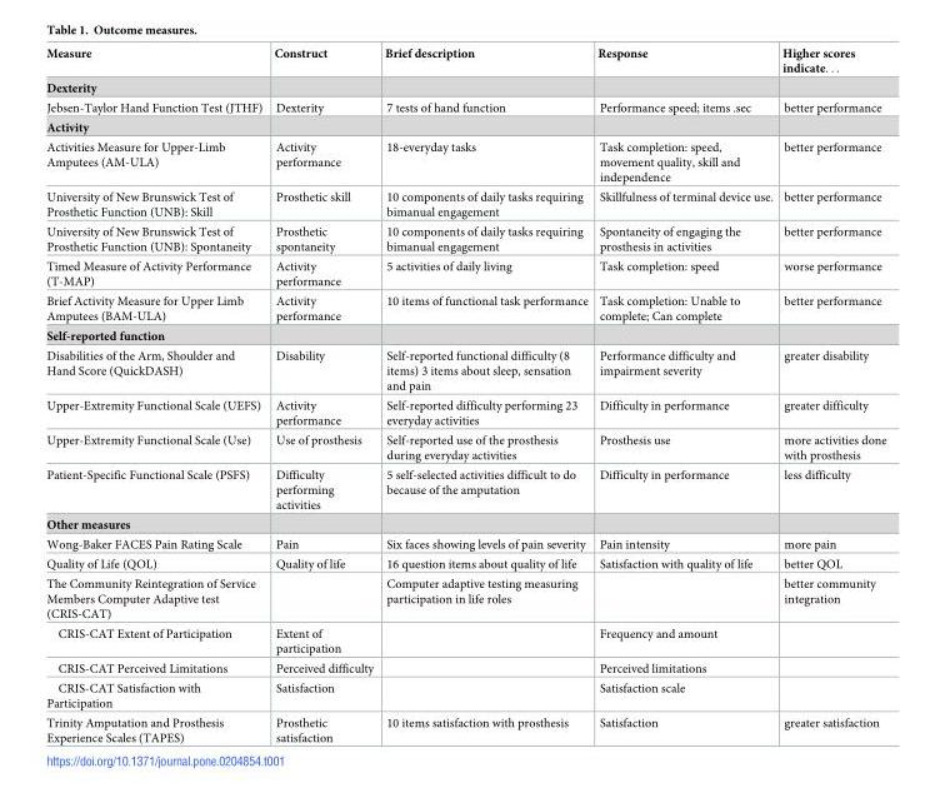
<table><thead><tr><td>Measure</td><td>Construct</td><td>Brief description</td><td>Response</td><td>Higher scores indicate. . .</td></tr></thead><tbody><tr><td colspan="5">Dexterity</td></tr><tr><td>Jebsen-Taylor Hand Function Test (JTHF)</td><td>Dexterity</td><td>7 tests of hand function</td><td>Performance speed; items .sec</td><td>better performance</td></tr><tr><td colspan="5">Activity</td></tr><tr><td>Activities Measure for Upper-Limb Amputees (AM-ULA)</td><td>Activity performance</td><td>18-everyday tasks</td><td>Task completion: speed, movement quality, skill and independence</td><td>better performance</td></tr><tr><td>University of New Brunswick Test of Prosthetic Function (UNB): Skill</td><td>Prosthetic skill</td><td>10 components of daily tasks requiring bimanual engagement</td><td>Skillfulness of terminal device use.</td><td>better performance</td></tr><tr><td>University of New Brunswick Test of Prosthetic Function (UNB): Spontaneity</td><td>Prosthetic spontaneity</td><td>10 components of daily tasks requiring bimanual engagement</td><td>Spontaneity of engaging the prosthesis in activities</td><td>better performance</td></tr><tr><td>Timed Measure of Activity Performance (T-MAP)</td><td>Activity performance</td><td>5 activities of daily living</td><td>Task completion: speed</td><td>worse performance</td></tr><tr><td>Brief Activity Measure for Upper Limb Amputees (BAM-ULA)</td><td>Activity performance</td><td>10 items of functional task performance</td><td>Task completion: Unable to complete; Can complete</td><td>better performance</td></tr><tr><td colspan="5">Self-reported function</td></tr><tr><td>Disabilities of the Arm, Shoulder and Hand Score (QuickDASH)</td><td>Disability</td><td>Self-reported functional difficulty (8 items) 3 items about sleep, sensation and pain</td><td>Performance difficulty and impairment severity</td><td>greater disability</td></tr><tr><td>Upper-Extremity Functional Scale (UEFS)</td><td>Activity performance</td><td>Self-reported difficulty performing 23 everyday activities</td><td>Difficulty in performance</td><td>greater difficulty</td></tr><tr><td>Upper-Extremity Functional Scale (Use)</td><td>Use of prosthesis</td><td>Self-reported use of the prosthesis during everyday activities</td><td>Prosthesis use</td><td>more activities done with prosthesis</td></tr><tr><td>Patient-Specific Functional Scale (PSFS)</td><td>Difficulty performing activities</td><td>5 self-selected activities difficult to do because of the amputation</td><td>Difficulty in performance</td><td>less difficulty</td></tr><tr><td colspan="5">Other measures</td></tr><tr><td>Wong-Baker FACES Pain Rating Scale</td><td>Pain</td><td>Six faces showing levels of pain severity</td><td>Pain intensity</td><td>more pain</td></tr><tr><td>Quality of Life (QOL)</td><td>Quality of life</td><td>16 question items about quality of life</td><td>Satisfaction with quality of life</td><td>better QOL</td></tr><tr><td>The Community Reintegration of Service Members Computer Adaptive test (CRIS-CAT)</td><td></td><td>Computer adaptive testing measuring participation in life roles</td><td></td><td>better community integration</td></tr><tr><td>CRIS-CAT Extent of Participation</td><td>Extent of participation</td><td></td><td>Frequency and amount</td><td></td></tr><tr><td>CRIS-CAT Perceived Limitations</td><td>Perceived difficulty</td><td></td><td>Perceived limitations</td><td></td></tr><tr><td>CRIS-CAT Satisfaction with Participation</td><td>Satisfaction</td><td></td><td>Satisfaction scale</td><td></td></tr><tr><td>Trinity Amputation and Prosthesis Experience Scales (TAPES)</td><td>Prosthetic satisfaction</td><td>10 items satisfaction with prosthesis</td><td>Satisfaction</td><td>greater satisfaction</td></tr></tbody></table>